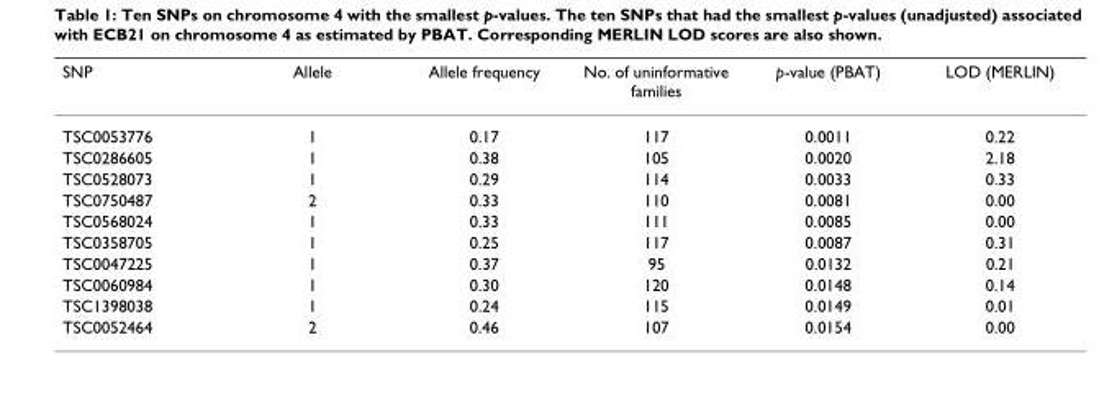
<table><thead><tr><td>SNP</td><td>Allele</td><td>Allele frequency</td><td>No. of uninformative families</td><td>p-value (PBAT)</td><td>LOD (MERLIN)</td></tr></thead><tbody><tr><td>TSC0053776</td><td>1</td><td>0.17</td><td>117</td><td>0.0011</td><td>0.22</td></tr><tr><td>TSC0286605</td><td>1</td><td>0.38</td><td>105</td><td>0.0020</td><td>2.18</td></tr><tr><td>TSC0528073</td><td>1</td><td>0.29</td><td>114</td><td>0.0033</td><td>0.33</td></tr><tr><td>TSC0750487</td><td>2</td><td>0.33</td><td>110</td><td>0.0081</td><td>0.00</td></tr><tr><td>TSC0568024</td><td>1</td><td>0.33</td><td>111</td><td>0.0085</td><td>0.00</td></tr><tr><td>TSC0358705</td><td>1</td><td>0.25</td><td>117</td><td>0.0087</td><td>0.31</td></tr><tr><td>TSC0047225</td><td>1</td><td>0.37</td><td>95</td><td>0.0132</td><td>0.21</td></tr><tr><td>TSC0060984</td><td>1</td><td>0.30</td><td>120</td><td>0.0148</td><td>0.14</td></tr><tr><td>TSC1398038</td><td>1</td><td>0.24</td><td>115</td><td>0.0149</td><td>0.01</td></tr><tr><td>TSC0052464</td><td>2</td><td>0.46</td><td>107</td><td>0.0154</td><td>0.00</td></tr></tbody></table>